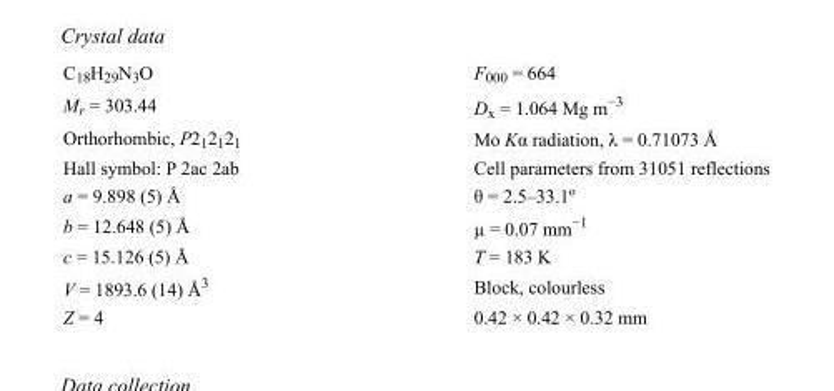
<table><tbody><tr><td>C<sub>18</sub>H<sub>29</sub>N<sub>3</sub>O</td><td>F000 = 664</td></tr><tr><td>M<sub>r</sub> = 303.44</td><td>D<sub>x</sub> = 1.064 Mg m<sup>−3</sup></td></tr><tr><td>Orthorhombic, P2<sub>1</sub>2<sub>1</sub>2<sub>1</sub></td><td>Mo Kα radiation, λ = 0.71073 Å</td></tr><tr><td>Hall symbol: P 2ac 2ab</td><td>Cell parameters from 31051 reflections</td></tr><tr><td>a = 9.898 (5) Å</td><td>θ = 2.5–33.1º</td></tr><tr><td>b = 12.648 (5) Å</td><td>µ = 0.07 mm<sup>−1</sup></td></tr><tr><td>c = 15.126 (5) Å</td><td>T = 183 K</td></tr><tr><td>V = 1893.6 (14) Å<sup>3</sup></td><td>Block, colourless</td></tr><tr><td>Z = 4</td><td>0.42 × 0.42 × 0.32 mm</td></tr></tbody></table>